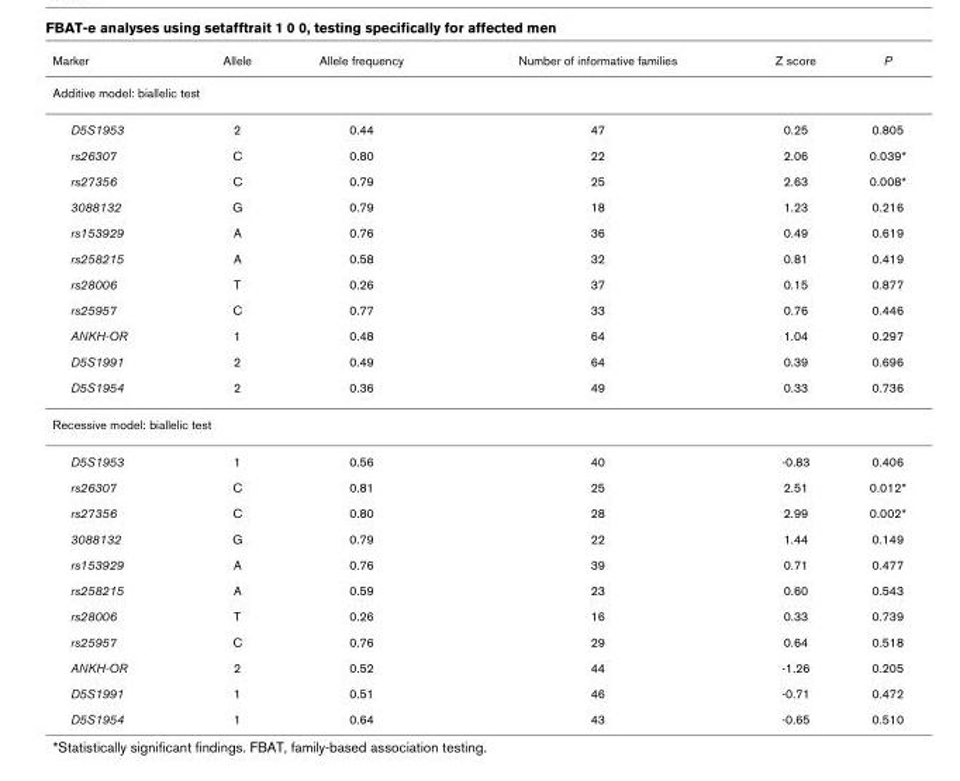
<table><thead><tr><td>Marker</td><td>Allele</td><td>Allele frequency</td><td>Number of informative families</td><td>Z score</td><td>P</td></tr></thead><tbody><tr><td colspan="6">Additive model: biallelic test</td></tr><tr><td>D5S1953</td><td>2</td><td>0.44</td><td>47</td><td>0.25</td><td>0.805</td></tr><tr><td>rs26307</td><td>C</td><td>0.80</td><td>22</td><td>2.06</td><td>0.039*</td></tr><tr><td>rs27356</td><td>C</td><td>0.79</td><td>25</td><td>2.63</td><td>0.008*</td></tr><tr><td>3088132</td><td>G</td><td>0.79</td><td>18</td><td>1.23</td><td>0.216</td></tr><tr><td>rs153929</td><td>A</td><td>0.76</td><td>36</td><td>0.49</td><td>0.619</td></tr><tr><td>rs258215</td><td>A</td><td>0.58</td><td>32</td><td>0.81</td><td>0.419</td></tr><tr><td>rs28006</td><td>T</td><td>0.26</td><td>37</td><td>0.15</td><td>0.877</td></tr><tr><td>rs25957</td><td>C</td><td>0.77</td><td>33</td><td>0.76</td><td>0.446</td></tr><tr><td>ANKH-OR</td><td>1</td><td>0.48</td><td>64</td><td>1.04</td><td>0.297</td></tr><tr><td>D5S1991</td><td>2</td><td>0.49</td><td>64</td><td>0.39</td><td>0.696</td></tr><tr><td>D5S1954</td><td>2</td><td>0.36</td><td>49</td><td>0.33</td><td>0.736</td></tr><tr><td colspan="6">Recessive model: biallelic test</td></tr><tr><td>D5S1953</td><td>1</td><td>0.56</td><td>40</td><td>-0.83</td><td>0.406</td></tr><tr><td>rs26307</td><td>C</td><td>0.81</td><td>25</td><td>2.51</td><td>0.012*</td></tr><tr><td>rs27356</td><td>C</td><td>0.80</td><td>28</td><td>2.99</td><td>0.002*</td></tr><tr><td>3088132</td><td>G</td><td>0.79</td><td>22</td><td>1.44</td><td>0.149</td></tr><tr><td>rs153929</td><td>A</td><td>0.76</td><td>39</td><td>0.71</td><td>0.477</td></tr><tr><td>rs258215</td><td>A</td><td>0.59</td><td>23</td><td>0.60</td><td>0.543</td></tr><tr><td>rs28006</td><td>T</td><td>0.26</td><td>16</td><td>0.33</td><td>0.739</td></tr><tr><td>rs25957</td><td>C</td><td>0.76</td><td>29</td><td>0.64</td><td>0.518</td></tr><tr><td>ANKH-OR</td><td>2</td><td>0.52</td><td>44</td><td>-1.26</td><td>0.205</td></tr><tr><td>D5S1991</td><td>1</td><td>0.51</td><td>46</td><td>-0.71</td><td>0.472</td></tr><tr><td>D5S1954</td><td>1</td><td>0.64</td><td>43</td><td>-0.65</td><td>0.510</td></tr></tbody></table>